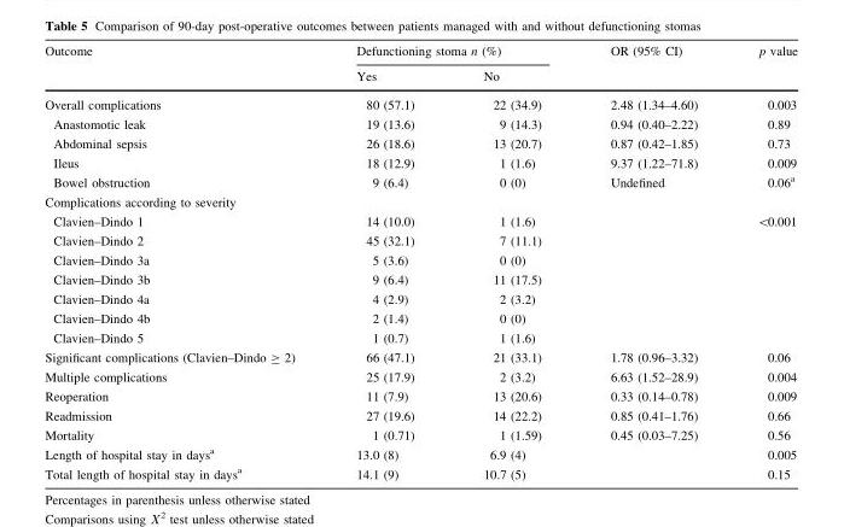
<table><thead><tr><td rowspan="2">Outcome</td><td colspan="2">Defunctioning stoma n (%)</td><td rowspan="2">OR (95% CI)</td><td rowspan="2">p value</td></tr><tr><td>Yes</td><td>No</td></tr></thead><tbody><tr><td>Overall complications</td><td>80 (57.1)</td><td>22 (34.9)</td><td>2.48 (1.34–4.60)</td><td>0.003</td></tr><tr><td>Anastomotic leak</td><td>19 (13.6)</td><td>9 (14.3)</td><td>0.94 (0.40–2.22)</td><td>0.89</td></tr><tr><td>Abdominal sepsis</td><td>26 (18.6)</td><td>13 (20.7)</td><td>0.87 (0.42–1.85)</td><td>0.73</td></tr><tr><td>Ileus</td><td>18 (12.9)</td><td>1 (1.6)</td><td>9.37 (1.22–71.8)</td><td>0.009</td></tr><tr><td>Bowel obstruction</td><td>9 (6.4)</td><td>0 (0)</td><td>Undefined</td><td>0.06<sup>a</sup></td></tr><tr><td colspan="5">Complications according to severity</td></tr><tr><td>Clavien–Dindo 1</td><td>14 (10.0)</td><td>1 (1.6)</td><td></td><td>&lt;0.001</td></tr><tr><td>Clavien–Dindo 2</td><td>45 (32.1)</td><td>7 (11.1)</td><td></td><td></td></tr><tr><td>Clavien–Dindo 3a</td><td>5 (3.6)</td><td>0 (0)</td><td></td><td></td></tr><tr><td>Clavien–Dindo 3b</td><td>9 (6.4)</td><td>11 (17.5)</td><td></td><td></td></tr><tr><td>Clavien–Dindo 4a</td><td>4 (2.9)</td><td>2 (3.2)</td><td></td><td></td></tr><tr><td>Clavien–Dindo 4b</td><td>2 (1.4)</td><td>0 (0)</td><td></td><td></td></tr><tr><td>Clavien–Dindo 5</td><td>1 (0.7)</td><td>1 (1.6)</td><td></td><td></td></tr><tr><td>Significant complications (Clavien–Dindo ≥ 2)</td><td>66 (47.1)</td><td>21 (33.1)</td><td>1.78 (0.96–3.32)</td><td>0.06</td></tr><tr><td>Multiple complications</td><td>25 (17.9)</td><td>2 (3.2)</td><td>6.63 (1.52–28.9)</td><td>0.004</td></tr><tr><td>Reoperation</td><td>11 (7.9)</td><td>13 (20.6)</td><td>0.33 (0.14–0.78)</td><td>0.009</td></tr><tr><td>Readmission</td><td>27 (19.6)</td><td>14 (22.2)</td><td>0.85 (0.41–1.76)</td><td>0.66</td></tr><tr><td>Mortality</td><td>1 (0.71)</td><td>1 (1.59)</td><td>0.45 (0.03–7.25)</td><td>0.56</td></tr><tr><td>Length of hospital stay in days<sup>a</sup></td><td>13.0 (8)</td><td>6.9 (4)</td><td></td><td>0.005</td></tr><tr><td>Total length of hospital stay in days<sup>a</sup></td><td>14.1 (9)</td><td>10.7 (5)</td><td></td><td>0.15</td></tr></tbody></table>